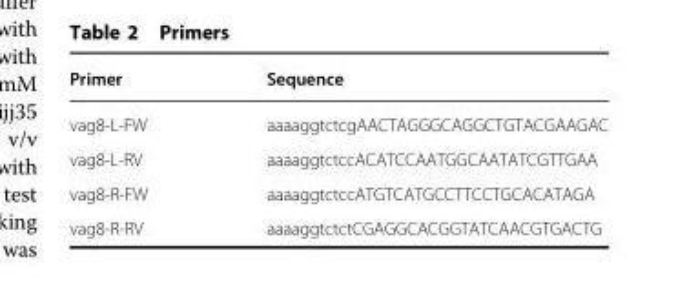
<table><thead><tr><td>Primer</td><td>Sequence</td></tr></thead><tbody><tr><td>vag8-L-FW</td><td>aaaaggtctcgAACTAGGGCAGGCTGTACGAAGAC</td></tr><tr><td>vag8-L-RV</td><td>aaaaggtctccACATCCAATGGCAATATCGTTGAA</td></tr><tr><td>vag8-R-FW</td><td>aaaaggtctccATGTCATGCCTTCCTGCACATAGA</td></tr><tr><td>vag8-R-RV</td><td>aaaaggtctctCGAGGCACGGTATCAACGTGACTG</td></tr></tbody></table>